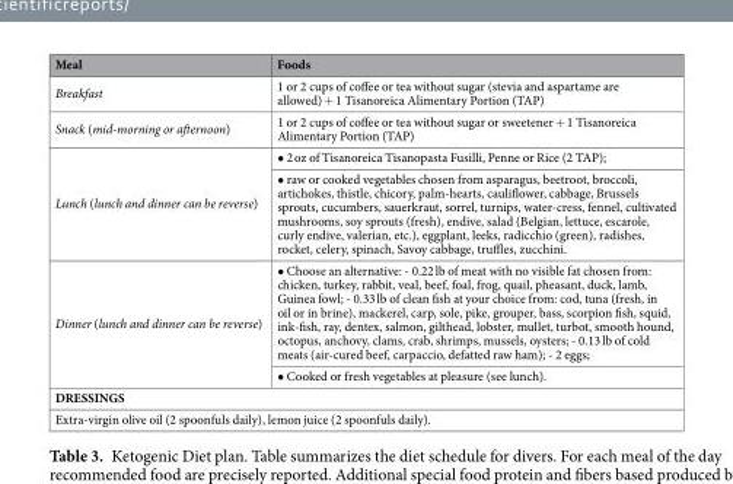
<table><thead><tr><td>Meal</td><td>Foods</td></tr></thead><tbody><tr><td>Breakfast</td><td>1 or 2 cups of coffee or tea without sugar (stevia and aspartame are allowed) + 1 Tisanoreica Alimentary Portion (TAP)</td></tr><tr><td>Snack (mid-morning or afternoon)</td><td>1 or 2 cups of coffee or tea without sugar or sweetener + 1 Tisanoreica Alimentary Portion (TAP)</td></tr><tr><td rowspan="2">Lunch (lunch and dinner can be reverse)</td><td>• 2 oz of Tisanoreica Tisanopasta Fusilli, Penne or Rice (2 TAP);</td></tr><tr><td>• raw or cooked vegetables chosen from asparagus, beetroot, broccoli, artichokes, thistle, chicory, palm-hearts, cauliflower, cabbage, Brussels sprouts, cucumbers, sauerkraut, sorrel, turnips, water-cress, fennel, cultivated mushrooms, soy sprouts (fresh), endive, salad (Belgian, lettuce, escarole, curly endive, valerian, etc.), eggplant, leeks, radicchio (green), radishes, rocket, celery, spinach, Savoy cabbage, truffles, zucchini.</td></tr><tr><td rowspan="2">Dinner (lunch and dinner can be reverse)</td><td>• Choose an alternative: - 0.22 lb of meat with no visible fat chosen from: chicken, turkey, rabbit, veal, beef, foal, frog, quail, pheasant, duck, lamb, Guinea fowl; - 0.33 lb of clean fish at your choice from: cod, tuna (fresh, in oil or in brine), mackerel, carp, sole, pike, grouper, bass, scorpion fish, squid, ink-fish, ray, dentex, salmon, gilthead, lobster, mullet, turbot, smooth hound, octopus, anchovy, clams, crab, shrimps, mussels, oysters; - 0.13 lb of cold meats (air-cured beef, carpaccio, defatted raw ham); - 2 eggs;</td></tr><tr><td>• Cooked or fresh vegetables at pleasure (see lunch).</td></tr><tr><td colspan="2">DRESSINGS</td></tr><tr><td colspan="2">Extra-virgin olive oil (2 spoonfuls daily), lemon juice (2 spoonfuls daily).</td></tr></tbody></table>